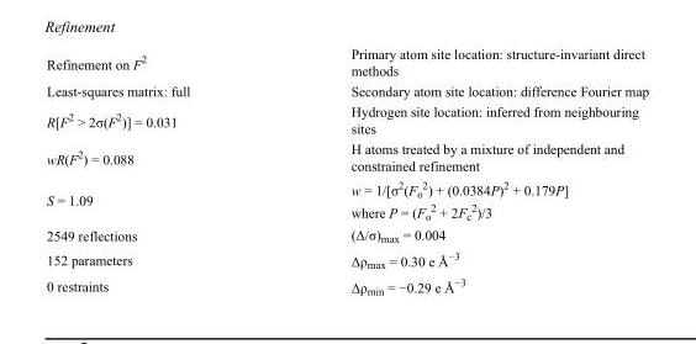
<table><tbody><tr><td>Refinement on F<sup>2</sup></td><td>Primary atom site location: structure-invariant direct methods</td></tr><tr><td>Least-squares matrix: full</td><td>Secondary atom site location: difference Fourier map</td></tr><tr><td>R[F<sup>2</sup> &gt; 2σ(F<sup>2</sup>)] = 0.031</td><td>Hydrogen site location: inferred from neighbouring sites</td></tr><tr><td>wR(F<sup>2</sup>) = 0.088</td><td>H atoms treated by a mixture of independent and constrained refinement</td></tr><tr><td>S = 1.09</td><td>w = 1/[σ<sup>2</sup>(F<sub>o</sub> <sup>2</sup>) + (0.0384P)<sup>2</sup> + 0.179P] where P = (F<sub>o</sub> <sup>2</sup> + 2F<sub>c</sub> <sup>2</sup>)/3</td></tr><tr><td>2549 reflections</td><td>(Δ/σ)<sub>max</sub> = 0.004</td></tr><tr><td>152 parameters</td><td>Δρ<sub>max</sub> = 0.30 e Å<sup>−3</sup></td></tr><tr><td>0 restraints</td><td>Δρ<sub>min</sub> = −0.29 e Å<sup>−3</sup></td></tr></tbody></table>